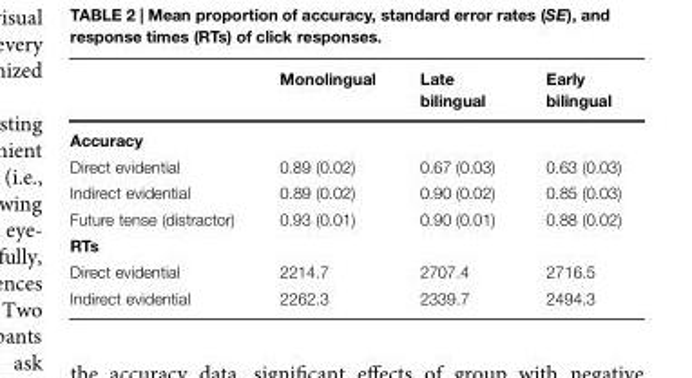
<table><thead><tr><td></td><td>Monolingual</td><td>Late bilingual</td><td>Early bilingual</td></tr></thead><tbody><tr><td colspan="4">Accuracy</td></tr><tr><td>Direct evidential</td><td>0.89 (0.02)</td><td>0.67 (0.03)</td><td>0.63 (0.03)</td></tr><tr><td>Indirect evidential</td><td>0.89 (0.02)</td><td>0.90 (0.02)</td><td>0.85 (0.03)</td></tr><tr><td>Future tense (distractor)</td><td>0.93 (0.01)</td><td>0.90 (0.01)</td><td>0.88 (0.02)</td></tr><tr><td colspan="4">RTs</td></tr><tr><td>Direct evidential</td><td>2214.7</td><td>2707.4</td><td>2716.5</td></tr><tr><td>Indirect evidential</td><td>2262.3</td><td>2339.7</td><td>2494.3</td></tr></tbody></table>